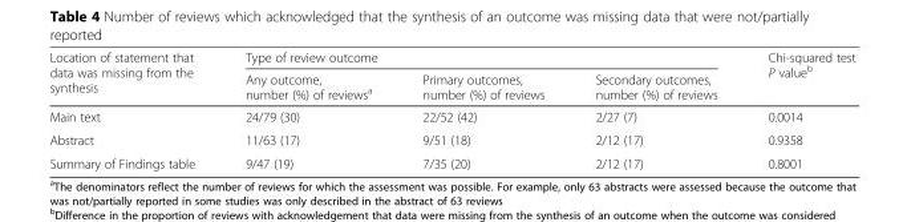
<table><thead><tr><td rowspan="2">Location of statement that data was missing from the synthesis</td><td colspan="3">Type of review outcome</td><td rowspan="2">Chi-squared test P value<sup>b</sup></td></tr><tr><td>Any outcome, number (%) of reviews<sup>a</sup></td><td>Primary outcomes, number (%) of reviews</td><td>Secondary outcomes, number (%) of reviews</td></tr></thead><tbody><tr><td>Main text</td><td>24/79 (30)</td><td>22/52 (42)</td><td>2/27 (7)</td><td>0.0014</td></tr><tr><td>Abstract</td><td>11/63 (17)</td><td>9/51 (18)</td><td>2/12 (17)</td><td>0.9358</td></tr><tr><td>Summary of Findings table</td><td>9/47 (19)</td><td>7/35 (20)</td><td>2/12 (17)</td><td>0.8001</td></tr></tbody></table>